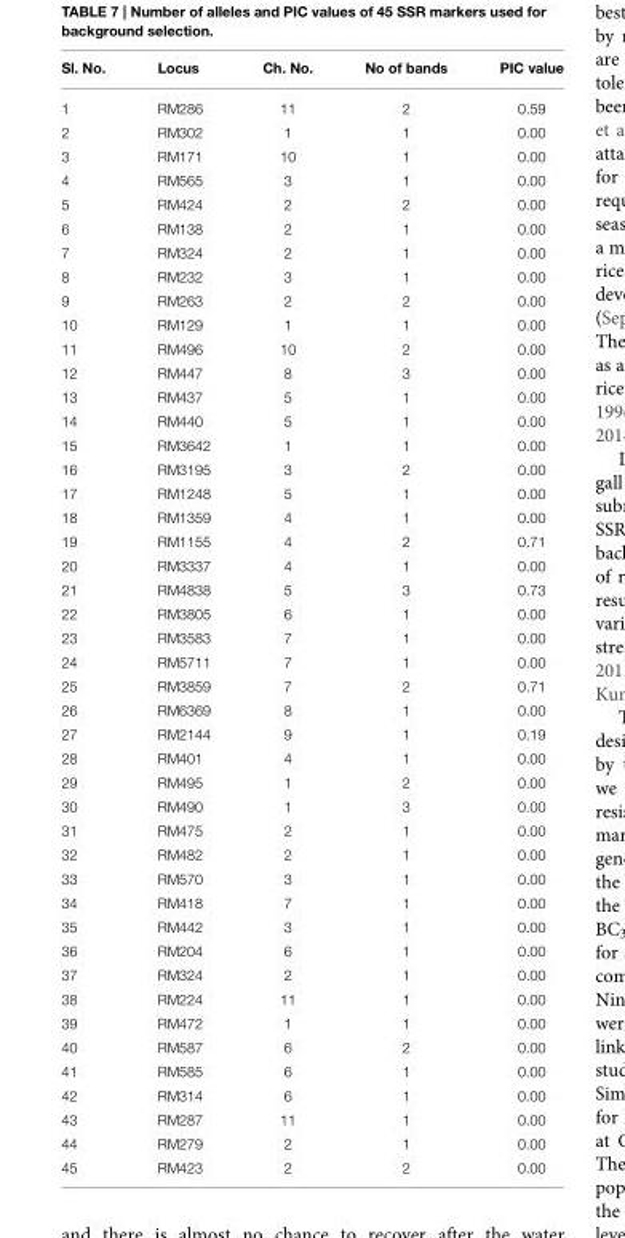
<table><thead><tr><td>Sl. No.</td><td>Locus</td><td>Ch. No.</td><td>No of bands</td><td>PIC value</td></tr></thead><tbody><tr><td>1</td><td>RM286</td><td>11</td><td>2</td><td>0.59</td></tr><tr><td>2</td><td>RM302</td><td>1</td><td>1</td><td>0.00</td></tr><tr><td>3</td><td>RM171</td><td>10</td><td>1</td><td>0.00</td></tr><tr><td>4</td><td>RM565</td><td>3</td><td>1</td><td>0.00</td></tr><tr><td>5</td><td>RM424</td><td>2</td><td>2</td><td>0.00</td></tr><tr><td>6</td><td>RM138</td><td>2</td><td>1</td><td>0.00</td></tr><tr><td>7</td><td>RM324</td><td>2</td><td>1</td><td>0.00</td></tr><tr><td>8</td><td>RM232</td><td>3</td><td>1</td><td>0.00</td></tr><tr><td>9</td><td>RM263</td><td>2</td><td>2</td><td>0.00</td></tr><tr><td>10</td><td>RM129</td><td>1</td><td>1</td><td>0.00</td></tr><tr><td>11</td><td>RM496</td><td>10</td><td>2</td><td>0.00</td></tr><tr><td>12</td><td>RM447</td><td>8</td><td>3</td><td>0.00</td></tr><tr><td>13</td><td>RM437</td><td>5</td><td>1</td><td>0.00</td></tr><tr><td>14</td><td>RM440</td><td>5</td><td>1</td><td>0.00</td></tr><tr><td>15</td><td>RM3642</td><td>1</td><td>1</td><td>0.00</td></tr><tr><td>16</td><td>RM3195</td><td>3</td><td>2</td><td>0.00</td></tr><tr><td>17</td><td>RM1248</td><td>5</td><td>1</td><td>0.00</td></tr><tr><td>18</td><td>RM1359</td><td>4</td><td>1</td><td>0.00</td></tr><tr><td>19</td><td>RM1155</td><td>4</td><td>2</td><td>0.71</td></tr><tr><td>20</td><td>RM3337</td><td>4</td><td>1</td><td>0.00</td></tr><tr><td>21</td><td>RM4838</td><td>5</td><td>3</td><td>0.73</td></tr><tr><td>22</td><td>RM3805</td><td>6</td><td>1</td><td>0.00</td></tr><tr><td>23</td><td>RM3583</td><td>7</td><td>1</td><td>0.00</td></tr><tr><td>24</td><td>RM5711</td><td>7</td><td>1</td><td>0.00</td></tr><tr><td>25</td><td>RM3859</td><td>7</td><td>2</td><td>0.71</td></tr><tr><td>26</td><td>RM6369</td><td>8</td><td>1</td><td>0.00</td></tr><tr><td>27</td><td>RM2144</td><td>9</td><td>1</td><td>0.19</td></tr><tr><td>28</td><td>RM401</td><td>4</td><td>1</td><td>0.00</td></tr><tr><td>29</td><td>RM495</td><td>1</td><td>2</td><td>0.00</td></tr><tr><td>30</td><td>RM490</td><td>1</td><td>3</td><td>0.00</td></tr><tr><td>31</td><td>RM475</td><td>2</td><td>1</td><td>0.00</td></tr><tr><td>32</td><td>RM482</td><td>2</td><td>1</td><td>0.00</td></tr><tr><td>33</td><td>RM570</td><td>3</td><td>1</td><td>0.00</td></tr><tr><td>34</td><td>RM418</td><td>7</td><td>1</td><td>0.00</td></tr><tr><td>35</td><td>RM442</td><td>3</td><td>1</td><td>0.00</td></tr><tr><td>36</td><td>RM204</td><td>6</td><td>1</td><td>0.00</td></tr><tr><td>37</td><td>RM324</td><td>2</td><td>1</td><td>0.00</td></tr><tr><td>38</td><td>RM224</td><td>11</td><td>1</td><td>0.00</td></tr><tr><td>39</td><td>RM472</td><td>1</td><td>1</td><td>0.00</td></tr><tr><td>40</td><td>RM587</td><td>6</td><td>2</td><td>0.00</td></tr><tr><td>41</td><td>RM585</td><td>6</td><td>1</td><td>0.00</td></tr><tr><td>42</td><td>RM314</td><td>6</td><td>1</td><td>0.00</td></tr><tr><td>43</td><td>RM287</td><td>11</td><td>1</td><td>0.00</td></tr><tr><td>44</td><td>RM279</td><td>2</td><td>1</td><td>0.00</td></tr><tr><td>45</td><td>RM423</td><td>2</td><td>2</td><td>0.00</td></tr></tbody></table>